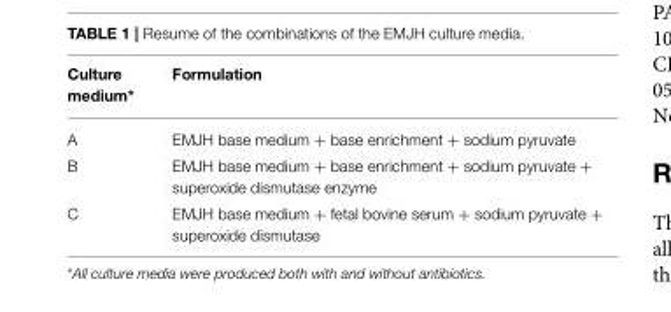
<table><thead><tr><td>Culture medium*</td><td>Formulation</td></tr></thead><tbody><tr><td>A</td><td>EMJH base medium + base enrichment + sodium pyruvate</td></tr><tr><td>B</td><td>EMJH base medium + base enrichment + sodium pyruvate + superoxide dismutase enzyme</td></tr><tr><td>C</td><td>EMJH base medium + fetal bovine serum + sodium pyruvate + superoxide dismutase</td></tr></tbody></table>